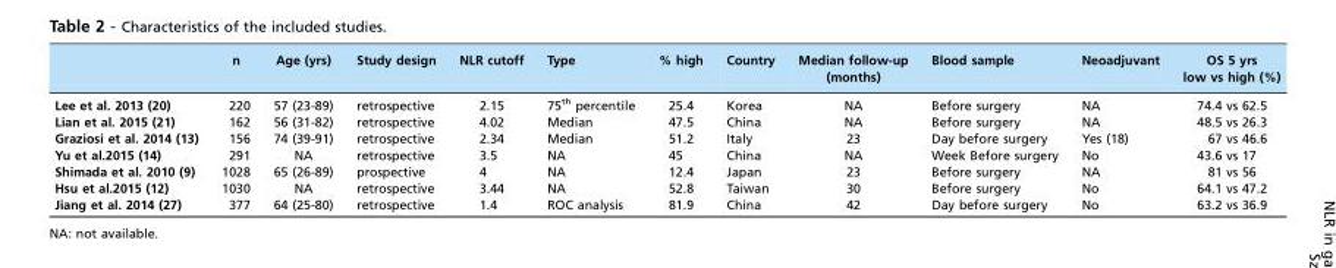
<table><thead><tr><td></td><td>n</td><td>Age (yrs)</td><td>Study design</td><td>NLR cutoff</td><td>Type</td><td>% high</td><td>Country</td><td>Median follow-up (months)</td><td>Blood sample</td><td>Neoadjuvant</td><td>OS 5 yrs low vs high (%)</td></tr></thead><tbody><tr><td>Lee et al. 2013 (20)</td><td>220</td><td>57 (23-89)</td><td>retrospective</td><td>2.15</td><td>75<sup>th</sup> percentile</td><td>25.4</td><td>Korea</td><td>NA</td><td>Before surgery</td><td>NA</td><td>74.4 vs 62.5</td></tr><tr><td>Lian et al. 2015 (21)</td><td>162</td><td>56 (31-82)</td><td>retrospective</td><td>4.02</td><td>Median</td><td>47.5</td><td>China</td><td>NA</td><td>Before surgery</td><td>NA</td><td>48.5 vs 26.3</td></tr><tr><td>Graziosi et al. 2014 (13)</td><td>156</td><td>74 (39-91)</td><td>retrospective</td><td>2.34</td><td>Median</td><td>51.2</td><td>Italy</td><td>23</td><td>Day before surgery</td><td>Yes (18)</td><td>67 vs 46.6</td></tr><tr><td>Yu et al.2015 (14)</td><td>291</td><td>NA</td><td>retrospective</td><td>3.5</td><td>NA</td><td>45</td><td>China</td><td>NA</td><td>Week Before surgery</td><td>No</td><td>43.6 vs 17</td></tr><tr><td>Shimada et al. 2010 (9)</td><td>1028</td><td>65 (26-89)</td><td>prospective</td><td>4</td><td>NA</td><td>12.4</td><td>Japan</td><td>23</td><td>Before surgery</td><td>NA</td><td>81 vs 56</td></tr><tr><td>Hsu et al.2015 (12)</td><td>1030</td><td>NA</td><td>retrospective</td><td>3.44</td><td>NA</td><td>52.8</td><td>Taiwan</td><td>30</td><td>Before surgery</td><td>No</td><td>64.1 vs 47.2</td></tr><tr><td>Jiang et al. 2014 (27)</td><td>377</td><td>64 (25-80)</td><td>retrospective</td><td>1.4</td><td>ROC analysis</td><td>81.9</td><td>China</td><td>42</td><td>Day before surgery</td><td>No</td><td>63.2 vs 36.9</td></tr></tbody></table>